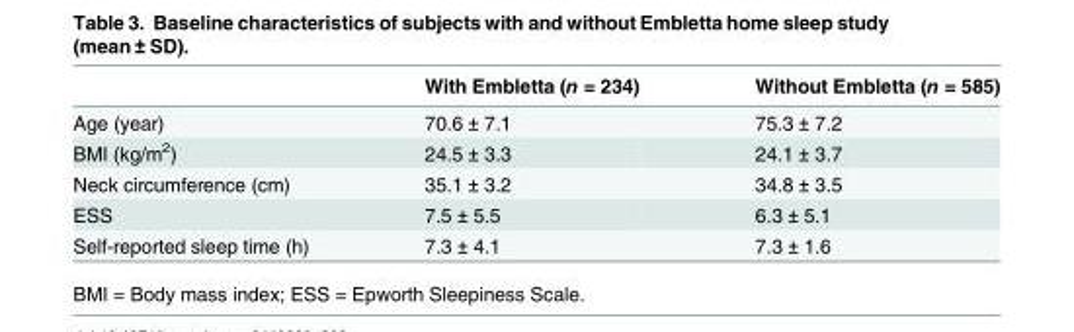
<table><thead><tr><td></td><td>With Embletta (n = 234)</td><td>Without Embletta (n = 585)</td></tr></thead><tbody><tr><td>Age (year)</td><td>70.6 ± 7.1</td><td>75.3 ± 7.2</td></tr><tr><td>BMI (kg/m<sup>2</sup>)</td><td>24.5 ± 3.3</td><td>24.1 ± 3.7</td></tr><tr><td>Neck circumference (cm)</td><td>35.1 ± 3.2</td><td>34.8 ± 3.5</td></tr><tr><td>ESS</td><td>7.5 ± 5.5</td><td>6.3 ± 5.1</td></tr><tr><td>Self-reported sleep time (h)</td><td>7.3 ± 4.1</td><td>7.3 ± 1.6</td></tr></tbody></table>